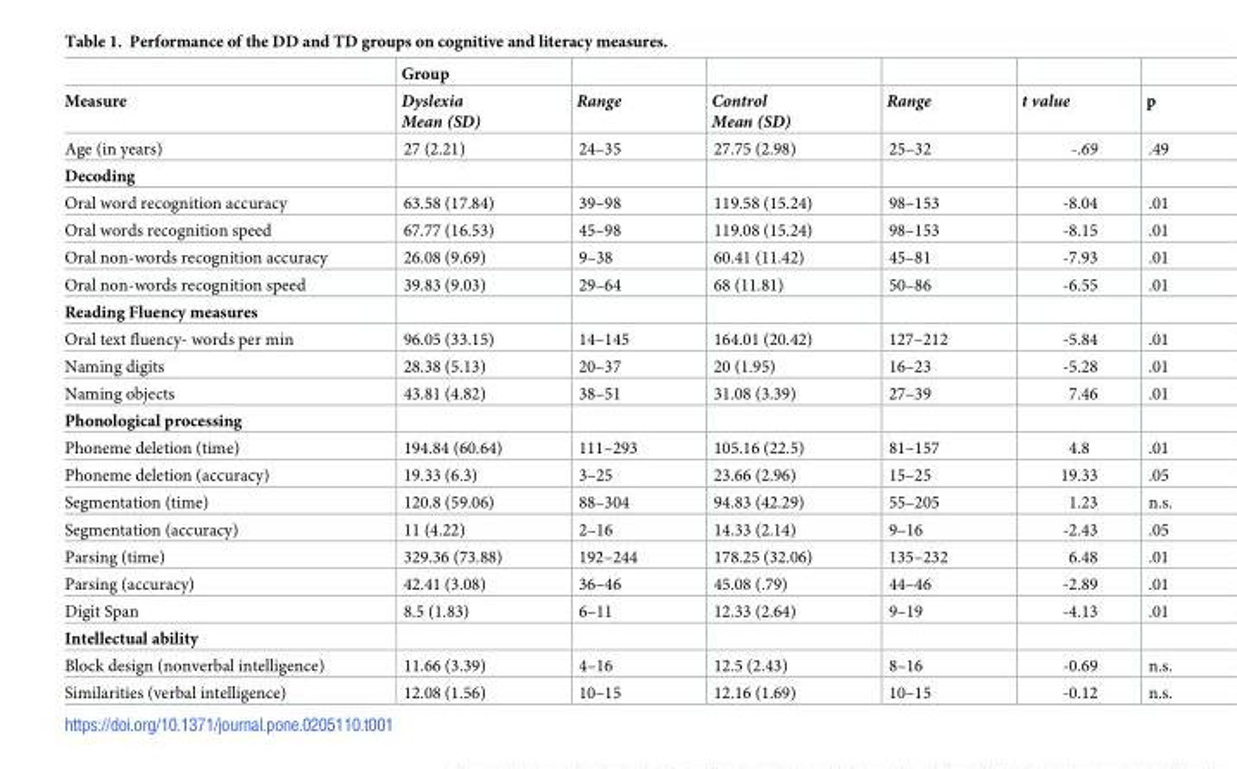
<table><thead><tr><td rowspan="2">Measure</td><td rowspan="2">Group Dyslexia Mean (SD)</td><td rowspan="2">Range</td><td rowspan="2">Control Mean (SD)</td><td rowspan="2">Range</td><td rowspan="2">t value</td><td rowspan="2">p</td></tr><tr></tr></thead><tbody><tr><td>Age (in years)</td><td>27 (2.21)</td><td>24–35</td><td>27.75 (2.98)</td><td>25–32</td><td>-.69</td><td>.49</td></tr><tr><td colspan="7">Decoding</td></tr><tr><td>Oral word recognition accuracy</td><td>63.58 (17.84)</td><td>39–98</td><td>119.58 (15.24)</td><td>98–153</td><td>-8.04</td><td>.01</td></tr><tr><td>Oral words recognition speed</td><td>67.77 (16.53)</td><td>45–98</td><td>119.08 (15.24)</td><td>98–153</td><td>-8.15</td><td>.01</td></tr><tr><td>Oral non-words recognition accuracy</td><td>26.08 (9.69)</td><td>9–38</td><td>60.41 (11.42)</td><td>45–81</td><td>-7.93</td><td>.01</td></tr><tr><td>Oral non-words recognition speed</td><td>39.83 (9.03)</td><td>29–64</td><td>68 (11.81)</td><td>50–86</td><td>-6.55</td><td>.01</td></tr><tr><td colspan="7">Reading Fluency measures</td></tr><tr><td>Oral text fluency- words per min</td><td>96.05 (33.15)</td><td>14–145</td><td>164.01 (20.42)</td><td>127–212</td><td>-5.84</td><td>.01</td></tr><tr><td>Naming digits</td><td>28.38 (5.13)</td><td>20–37</td><td>20 (1.95)</td><td>16–23</td><td>-5.28</td><td>.01</td></tr><tr><td>Naming objects</td><td>43.81 (4.82)</td><td>38–51</td><td>31.08 (3.39)</td><td>27–39</td><td>7.46</td><td>.01</td></tr><tr><td colspan="7">Phonological processing</td></tr><tr><td>Phoneme deletion (time)</td><td>194.84 (60.64)</td><td>111–293</td><td>105.16 (22.5)</td><td>81–157</td><td>4.8</td><td>.01</td></tr><tr><td>Phoneme deletion (accuracy)</td><td>19.33 (6.3)</td><td>3–25</td><td>23.66 (2.96)</td><td>15–25</td><td>19.33</td><td>.05</td></tr><tr><td>Segmentation (time)</td><td>120.8 (59.06)</td><td>88–304</td><td>94.83 (42.29)</td><td>55–205</td><td>1.23</td><td>n.s.</td></tr><tr><td>Segmentation (accuracy)</td><td>11 (4.22)</td><td>2–16</td><td>14.33 (2.14)</td><td>9–16</td><td>-2.43</td><td>.05</td></tr><tr><td>Parsing (time)</td><td>329.36 (73.88)</td><td>192–244</td><td>178.25 (32.06)</td><td>135–232</td><td>6.48</td><td>.01</td></tr><tr><td>Parsing (accuracy)</td><td>42.41 (3.08)</td><td>36–46</td><td>45.08 (.79)</td><td>44–46</td><td>-2.89</td><td>.01</td></tr><tr><td>Digit Span</td><td>8.5 (1.83)</td><td>6–11</td><td>12.33 (2.64)</td><td>9–19</td><td>-4.13</td><td>.01</td></tr><tr><td colspan="7">Intellectual ability</td></tr><tr><td>Block design (nonverbal intelligence)</td><td>11.66 (3.39)</td><td>4–16</td><td>12.5 (2.43)</td><td>8–16</td><td>-0.69</td><td>n.s.</td></tr><tr><td>Similarities (verbal intelligence)</td><td>12.08 (1.56)</td><td>10–15</td><td>12.16 (1.69)</td><td>10–15</td><td>-0.12</td><td>n.s.</td></tr></tbody></table>